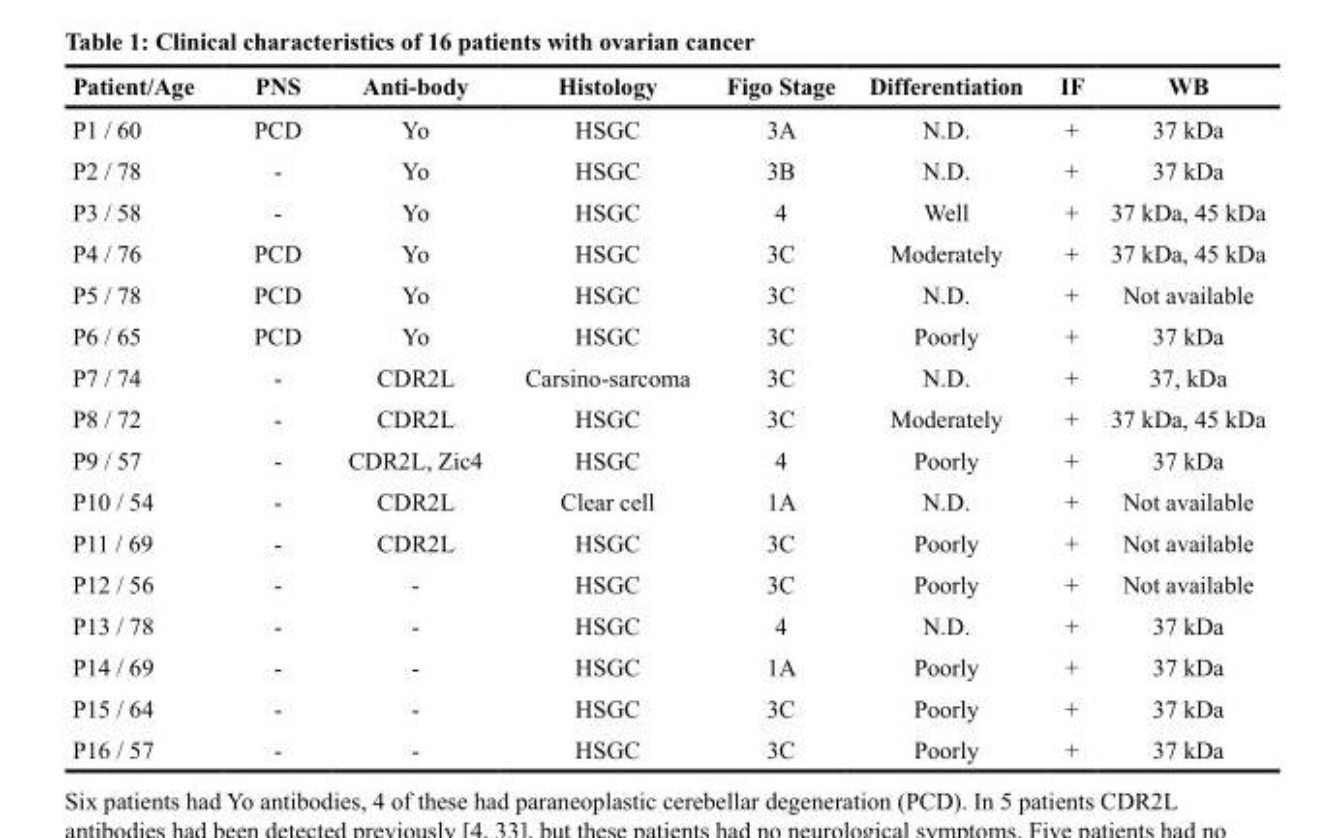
<table><thead><tr><td>Patient/Age</td><td>PNS</td><td>Anti-body</td><td>Histology</td><td>Figo Stage</td><td>Differentiation</td><td>IF</td><td>WB</td></tr></thead><tbody><tr><td>P1 / 60</td><td>PCD</td><td>Yo</td><td>HSGC</td><td>3A</td><td>N.D.</td><td>+</td><td>37 kDa</td></tr><tr><td>P2 / 78</td><td>-</td><td>Yo</td><td>HSGC</td><td>3B</td><td>N.D.</td><td>+</td><td>37 kDa</td></tr><tr><td>P3 / 58</td><td>-</td><td>Yo</td><td>HSGC</td><td>4</td><td>Well</td><td>+</td><td>37 kDa, 45 kDa</td></tr><tr><td>P4 / 76</td><td>PCD</td><td>Yo</td><td>HSGC</td><td>3C</td><td>Moderately</td><td>+</td><td>37 kDa, 45 kDa</td></tr><tr><td>P5 / 78</td><td>PCD</td><td>Yo</td><td>HSGC</td><td>3C</td><td>N.D.</td><td>+</td><td>Not available</td></tr><tr><td>P6 / 65</td><td>PCD</td><td>Yo</td><td>HSGC</td><td>3C</td><td>Poorly</td><td>+</td><td>37 kDa</td></tr><tr><td>P7 / 74</td><td>-</td><td>CDR2L</td><td>Carsino-sarcoma</td><td>3C</td><td>N.D.</td><td>+</td><td>37, kDa</td></tr><tr><td>P8 / 72</td><td>-</td><td>CDR2L</td><td>HSGC</td><td>3C</td><td>Moderately</td><td>+</td><td>37 kDa, 45 kDa</td></tr><tr><td>P9 / 57</td><td>-</td><td>CDR2L, Zic4</td><td>HSGC</td><td>4</td><td>Poorly</td><td>+</td><td>37 kDa</td></tr><tr><td>P10 / 54</td><td>-</td><td>CDR2L</td><td>Clear cell</td><td>1A</td><td>N.D.</td><td>+</td><td>Not available</td></tr><tr><td>P11 / 69</td><td>-</td><td>CDR2L</td><td>HSGC</td><td>3C</td><td>Poorly</td><td>+</td><td>Not available</td></tr><tr><td>P12 / 56</td><td>-</td><td>-</td><td>HSGC</td><td>3C</td><td>Poorly</td><td>+</td><td>Not available</td></tr><tr><td>P13 / 78</td><td>-</td><td>-</td><td>HSGC</td><td>4</td><td>N.D.</td><td>+</td><td>37 kDa</td></tr><tr><td>P14 / 69</td><td>-</td><td>-</td><td>HSGC</td><td>1A</td><td>Poorly</td><td>+</td><td>37 kDa</td></tr><tr><td>P15 / 64</td><td>-</td><td>-</td><td>HSGC</td><td>3C</td><td>Poorly</td><td>+</td><td>37 kDa</td></tr><tr><td>P16 / 57</td><td>-</td><td>-</td><td>HSGC</td><td>3C</td><td>Poorly</td><td>+</td><td>37 kDa</td></tr></tbody></table>